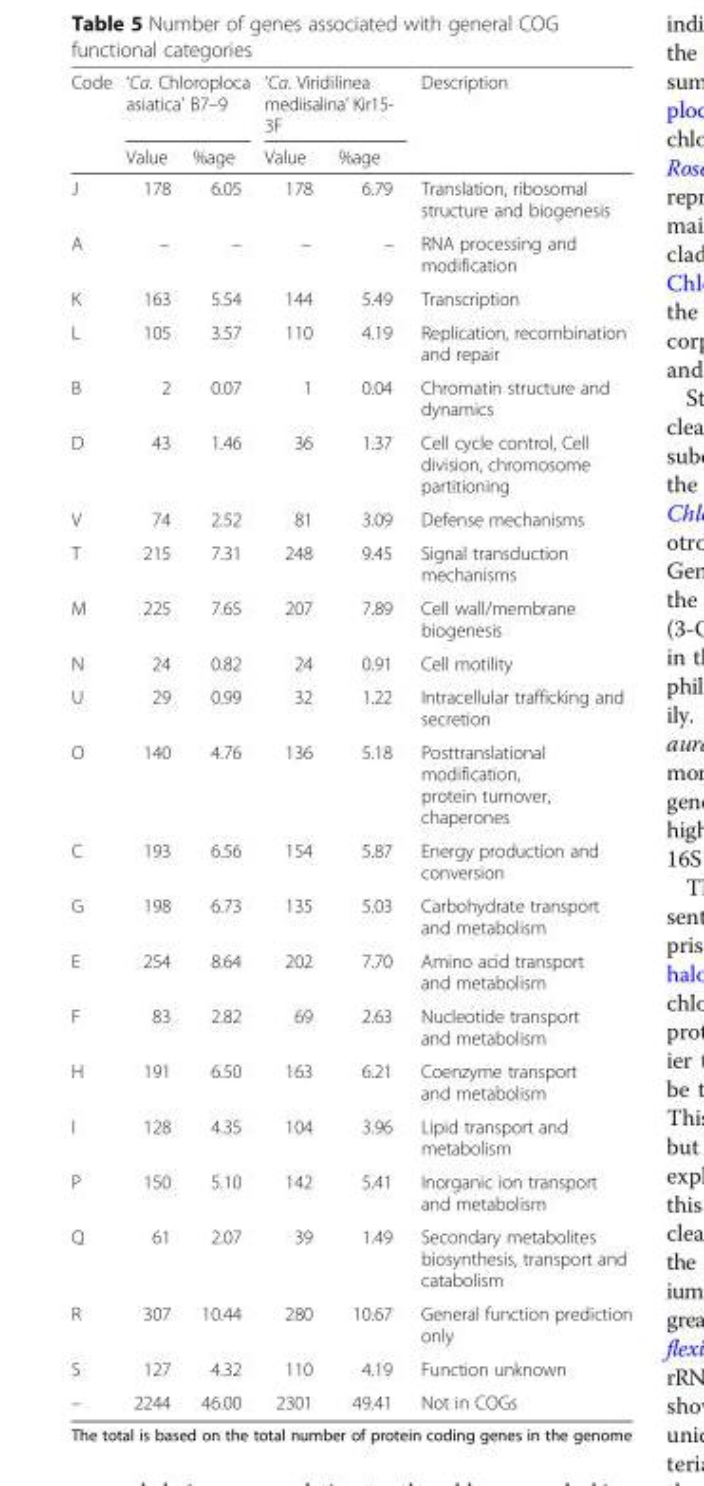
<table><thead><tr><td rowspan="2">Code</td><td colspan="2">‘Ca. Chloroploca asiatica’ B7–9</td><td colspan="2">‘Ca. Viridilinea mediisalina’ Kir15- 3F</td><td rowspan="2">Description</td></tr><tr><td>Value</td><td>%age</td><td>Value</td><td>%age</td></tr></thead><tbody><tr><td>J</td><td>178</td><td>6.05</td><td>178</td><td>6.79</td><td>Translation, ribosomal structure and biogenesis</td></tr><tr><td>A</td><td>–</td><td>–</td><td>–</td><td>–</td><td>RNA processing and modification</td></tr><tr><td>K</td><td>163</td><td>5.54</td><td>144</td><td>5.49</td><td>Transcription</td></tr><tr><td>L</td><td>105</td><td>3.57</td><td>110</td><td>4.19</td><td>Replication, recombination and repair</td></tr><tr><td>B</td><td>2</td><td>0.07</td><td>1</td><td>0.04</td><td>Chromatin structure and dynamics</td></tr><tr><td>D</td><td>43</td><td>1.46</td><td>36</td><td>1.37</td><td>Cell cycle control, Cell division, chromosome partitioning</td></tr><tr><td>V</td><td>74</td><td>2.52</td><td>81</td><td>3.09</td><td>Defense mechanisms</td></tr><tr><td>T</td><td>215</td><td>7.31</td><td>248</td><td>9.45</td><td>Signal transduction mechanisms</td></tr><tr><td>M</td><td>225</td><td>7.65</td><td>207</td><td>7.89</td><td>Cell wall/membrane biogenesis</td></tr><tr><td>N</td><td>24</td><td>0.82</td><td>24</td><td>0.91</td><td>Cell motility</td></tr><tr><td>U</td><td>29</td><td>0.99</td><td>32</td><td>1.22</td><td>Intracellular trafficking and secretion</td></tr><tr><td>O</td><td>140</td><td>4.76</td><td>136</td><td>5.18</td><td>Posttranslational modification, protein turnover, chaperones</td></tr><tr><td>C</td><td>193</td><td>6.56</td><td>154</td><td>5.87</td><td>Energy production and conversion</td></tr><tr><td>G</td><td>198</td><td>6.73</td><td>135</td><td>5.03</td><td>Carbohydrate transport and metabolism</td></tr><tr><td>E</td><td>254</td><td>8.64</td><td>202</td><td>7.70</td><td>Amino acid transport and metabolism</td></tr><tr><td>F</td><td>83</td><td>2.82</td><td>69</td><td>2.63</td><td>Nucleotide transport and metabolism</td></tr><tr><td>H</td><td>191</td><td>6.50</td><td>163</td><td>6.21</td><td>Coenzyme transport and metabolism</td></tr><tr><td>I</td><td>128</td><td>4.35</td><td>104</td><td>3.96</td><td>Lipid transport and metabolism</td></tr><tr><td>P</td><td>150</td><td>5.10</td><td>142</td><td>5.41</td><td>Inorganic ion transport and metabolism</td></tr><tr><td>Q</td><td>61</td><td>2.07</td><td>39</td><td>1.49</td><td>Secondary metabolites biosynthesis, transport and catabolism</td></tr><tr><td>R</td><td>307</td><td>10.44</td><td>280</td><td>10.67</td><td>General function prediction only</td></tr><tr><td>S</td><td>127</td><td>4.32</td><td>110</td><td>4.19</td><td>Function unknown</td></tr><tr><td>–</td><td>2244</td><td>46.00</td><td>2301</td><td>49.41</td><td>Not in COGs</td></tr></tbody></table>